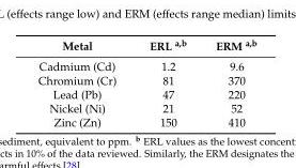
<table><thead><tr><td>Metal</td><td>ERL <sup>a,b</sup></td><td>ERM <sup>a,b</sup></td></tr></thead><tbody><tr><td>Cadmium (Cd)</td><td>1.2</td><td>9.6</td></tr><tr><td>Chromium (Cr)</td><td>81</td><td>370</td></tr><tr><td>Lead (Pb)</td><td>47</td><td>220</td></tr><tr><td>Nickel (Ni)</td><td>21</td><td>52</td></tr><tr><td>Zinc (Zn)</td><td>150</td><td>410</td></tr></tbody></table>